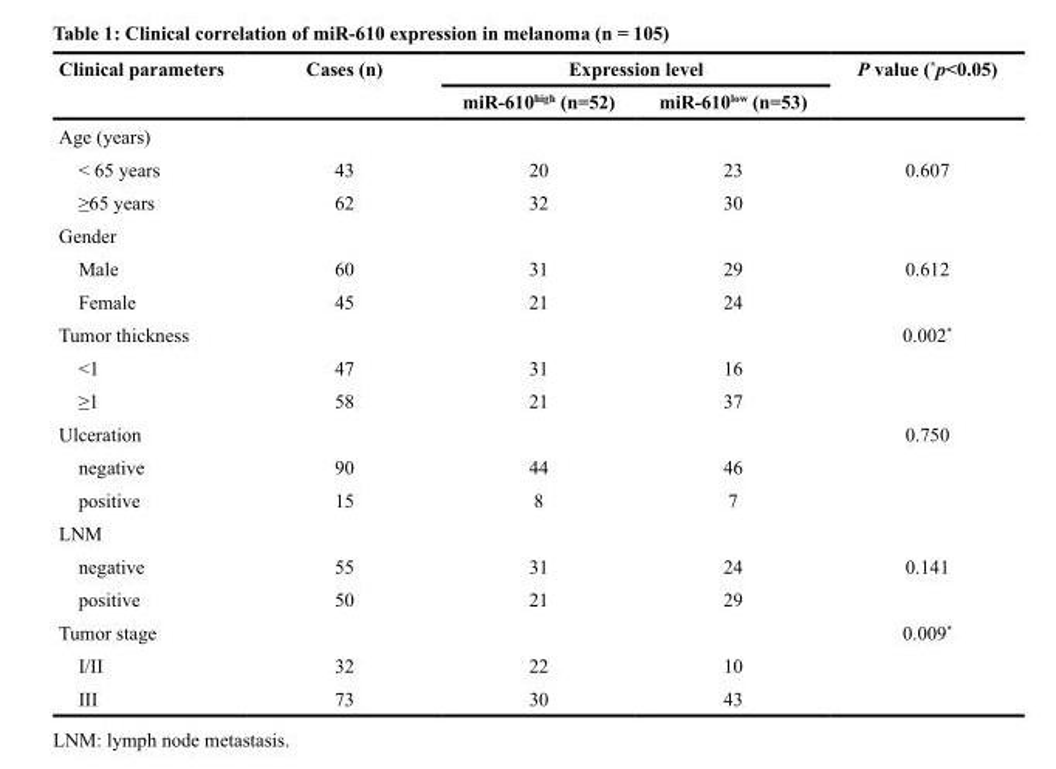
<table><thead><tr><td rowspan="2">Clinical parameters</td><td rowspan="2">Cases (n)</td><td colspan="2">Expression level</td><td rowspan="2">P value (*p&lt;0.05)</td></tr><tr><td>miR-610<sup>high</sup> (n=52)</td><td>miR-610<sup>low</sup> (n=53)</td></tr></thead><tbody><tr><td colspan="5">Age (years)</td></tr><tr><td>&lt; 65 years</td><td>43</td><td>20</td><td>23</td><td>0.607</td></tr><tr><td>≥65 years</td><td>62</td><td>32</td><td>30</td><td></td></tr><tr><td colspan="5">Gender</td></tr><tr><td>Male</td><td>60</td><td>31</td><td>29</td><td>0.612</td></tr><tr><td>Female</td><td>45</td><td>21</td><td>24</td><td></td></tr><tr><td>Tumor thickness</td><td></td><td></td><td></td><td>0.002*</td></tr><tr><td>&lt;1</td><td>47</td><td>31</td><td>16</td><td></td></tr><tr><td>≥1</td><td>58</td><td>21</td><td>37</td><td></td></tr><tr><td>Ulceration</td><td></td><td></td><td></td><td>0.750</td></tr><tr><td>negative</td><td>90</td><td>44</td><td>46</td><td></td></tr><tr><td>positive</td><td>15</td><td>8</td><td>7</td><td></td></tr><tr><td colspan="5">LNM</td></tr><tr><td>negative</td><td>55</td><td>31</td><td>24</td><td>0.141</td></tr><tr><td>positive</td><td>50</td><td>21</td><td>29</td><td></td></tr><tr><td>Tumor stage</td><td></td><td></td><td></td><td>0.009*</td></tr><tr><td>I/II</td><td>32</td><td>22</td><td>10</td><td></td></tr><tr><td>III</td><td>73</td><td>30</td><td>43</td><td></td></tr></tbody></table>